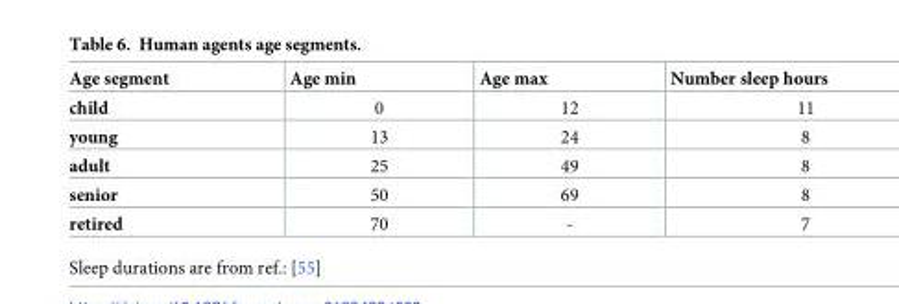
<table><thead><tr><td>Age segment</td><td>Age min</td><td>Age max</td><td>Number sleep hours</td></tr></thead><tbody><tr><td>child</td><td>0</td><td>12</td><td>11</td></tr><tr><td>young</td><td>13</td><td>24</td><td>8</td></tr><tr><td>adult</td><td>25</td><td>49</td><td>8</td></tr><tr><td>senior</td><td>50</td><td>69</td><td>8</td></tr><tr><td>retired</td><td>70</td><td>-</td><td>7</td></tr></tbody></table>